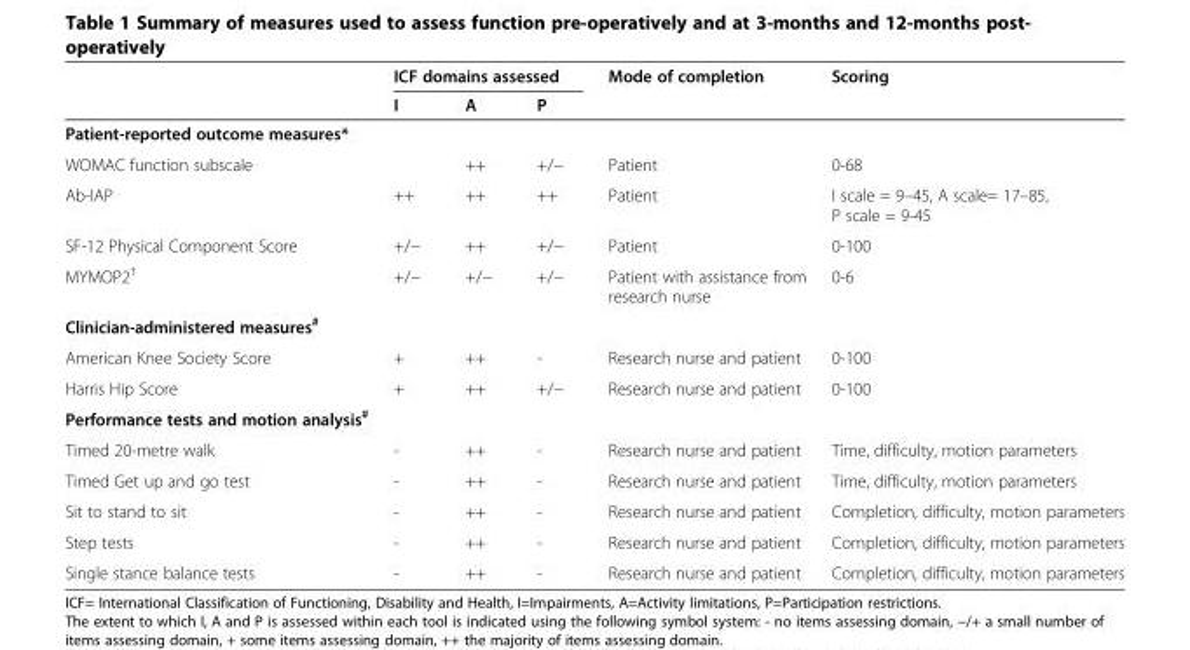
<table><thead><tr><td rowspan="2"></td><td colspan="3">ICF domains assessed</td><td rowspan="2">Mode of completion</td><td rowspan="2">Scoring</td></tr><tr><td>I</td><td>A</td><td>P</td></tr></thead><tbody><tr><td colspan="6">Patient-reported outcome measures*</td></tr><tr><td>WOMAC function subscale</td><td></td><td>++</td><td>+/−</td><td>Patient</td><td>0-68</td></tr><tr><td>Ab-IAP</td><td>++</td><td>++</td><td>++</td><td>Patient</td><td>I scale = 9–45, A scale= 17–85, P scale = 9-45</td></tr><tr><td>SF-12 Physical Component Score</td><td>+/−</td><td>++</td><td>+/−</td><td>Patient</td><td>0-100</td></tr><tr><td>MYMOP2<sup>†</sup></td><td>+/−</td><td>+/−</td><td>+/−</td><td>Patient with assistance from research nurse</td><td>0-6</td></tr><tr><td colspan="6">Clinician-administered measures<sup>#</sup></td></tr><tr><td>American Knee Society Score</td><td>+</td><td>++</td><td>-</td><td>Research nurse and patient</td><td>0-100</td></tr><tr><td>Harris Hip Score</td><td>+</td><td>++</td><td>+/−</td><td>Research nurse and patient</td><td>0-100</td></tr><tr><td colspan="6">Performance tests and motion analysis<sup>#</sup></td></tr><tr><td>Timed 20-metre walk</td><td>-</td><td>++</td><td>-</td><td>Research nurse and patient</td><td>Time, difficulty, motion parameters</td></tr><tr><td>Timed Get up and go test</td><td>-</td><td>++</td><td>-</td><td>Research nurse and patient</td><td>Time, difficulty, motion parameters</td></tr><tr><td>Sit to stand to sit</td><td>-</td><td>++</td><td>-</td><td>Research nurse and patient</td><td>Completion, difficulty, motion parameters</td></tr><tr><td>Step tests</td><td>-</td><td>++</td><td>-</td><td>Research nurse and patient</td><td>Completion, difficulty, motion parameters</td></tr><tr><td>Single stance balance tests</td><td>-</td><td>++</td><td>-</td><td>Research nurse and patient</td><td>Completion, difficulty, motion parameters</td></tr></tbody></table>